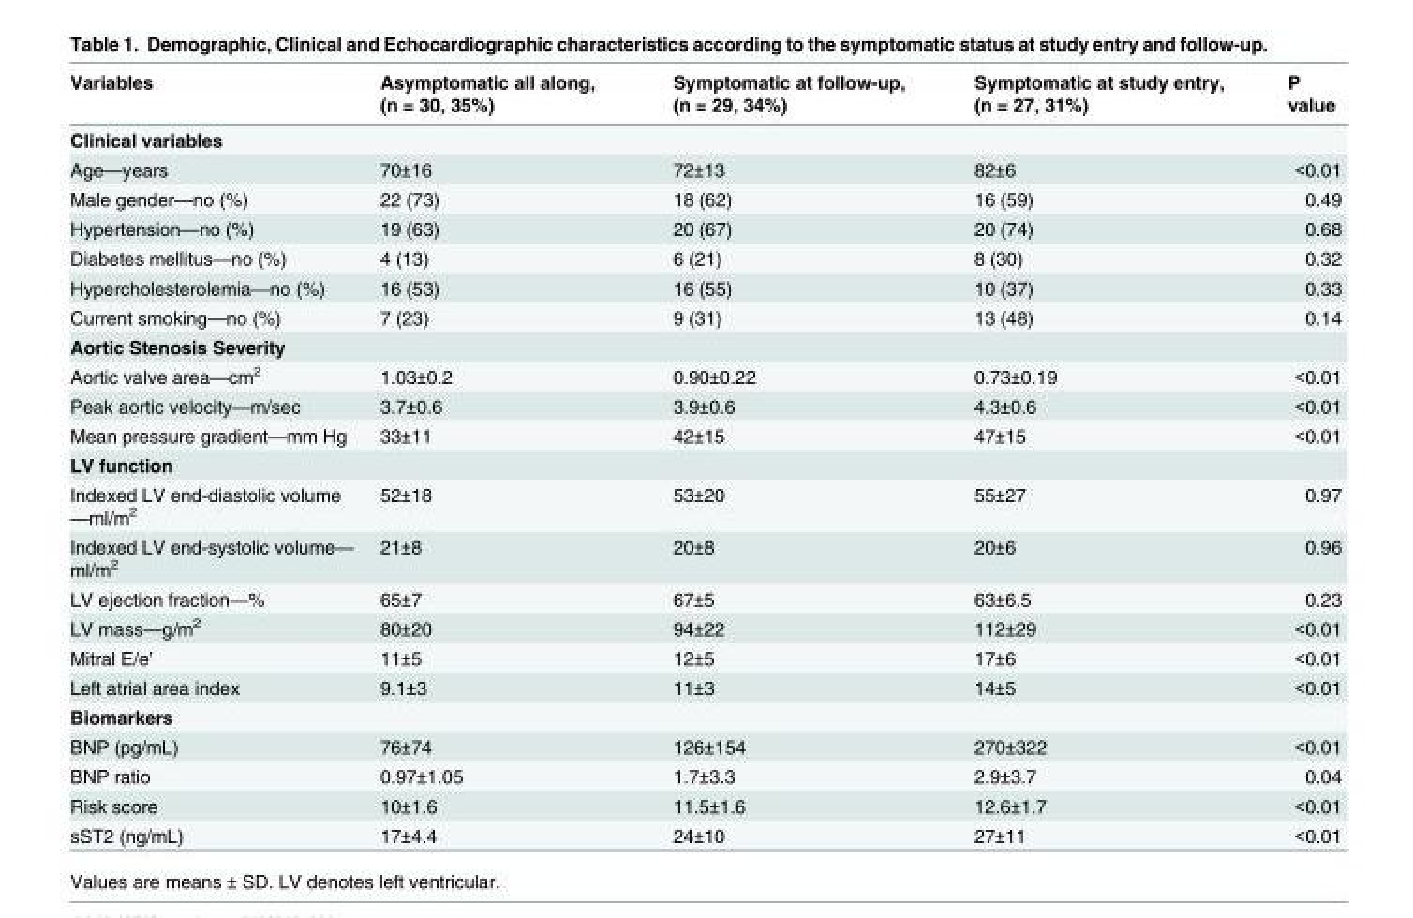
<table><thead><tr><td>Variables</td><td>Asymptomatic all along, (n = 30, 35%)</td><td>Symptomatic at follow-up, (n = 29, 34%)</td><td>Symptomatic at study entry, (n = 27, 31%)</td><td>P value</td></tr></thead><tbody><tr><td colspan="5">Clinical variables</td></tr><tr><td>Age—years</td><td>70±16</td><td>72±13</td><td>82±6</td><td>&lt;0.01</td></tr><tr><td>Male gender—no (%)</td><td>22 (73)</td><td>18 (62)</td><td>16 (59)</td><td>0.49</td></tr><tr><td>Hypertension—no (%)</td><td>19 (63)</td><td>20 (67)</td><td>20 (74)</td><td>0.68</td></tr><tr><td>Diabetes mellitus—no (%)</td><td>4 (13)</td><td>6 (21)</td><td>8 (30)</td><td>0.32</td></tr><tr><td>Hypercholesterolemia—no (%)</td><td>16 (53)</td><td>16 (55)</td><td>10 (37)</td><td>0.33</td></tr><tr><td>Current smoking—no (%)</td><td>7 (23)</td><td>9 (31)</td><td>13 (48)</td><td>0.14</td></tr><tr><td colspan="5">Aortic Stenosis Severity</td></tr><tr><td>Aortic valve area—cm<sup>2</sup></td><td>1.03±0.2</td><td>0.90±0.22</td><td>0.73±0.19</td><td>&lt;0.01</td></tr><tr><td>Peak aortic velocity—m/sec</td><td>3.7±0.6</td><td>3.9±0.6</td><td>4.3±0.6</td><td>&lt;0.01</td></tr><tr><td>Mean pressure gradient—mm Hg</td><td>33±11</td><td>42±15</td><td>47±15</td><td>&lt;0.01</td></tr><tr><td colspan="5">LV function</td></tr><tr><td>Indexed LV end-diastolic volume —ml/m<sup>2</sup></td><td>52±18</td><td>53±20</td><td>55±27</td><td>0.97</td></tr><tr><td>Indexed LV end-systolic volume— ml/m<sup>2</sup></td><td>21±8</td><td>20±8</td><td>20±6</td><td>0.96</td></tr><tr><td>LV ejection fraction—%</td><td>65±7</td><td>67±5</td><td>63±6.5</td><td>0.23</td></tr><tr><td>LV mass—g/m<sup>2</sup></td><td>80±20</td><td>94±22</td><td>112±29</td><td>&lt;0.01</td></tr><tr><td>Mitral E/e’</td><td>11±5</td><td>12±5</td><td>17±6</td><td>&lt;0.01</td></tr><tr><td>Left atrial area index</td><td>9.1±3</td><td>11±3</td><td>14±5</td><td>&lt;0.01</td></tr><tr><td colspan="5">Biomarkers</td></tr><tr><td>BNP (pg/mL)</td><td>76±74</td><td>126±154</td><td>270±322</td><td>&lt;0.01</td></tr><tr><td>BNP ratio</td><td>0.97±1.05</td><td>1.7±3.3</td><td>2.9±3.7</td><td>0.04</td></tr><tr><td>Risk score</td><td>10±1.6</td><td>11.5±1.6</td><td>12.6±1.7</td><td>&lt;0.01</td></tr><tr><td>sST2 (ng/mL)</td><td>17±4.4</td><td>24±10</td><td>27±11</td><td>&lt;0.01</td></tr></tbody></table>